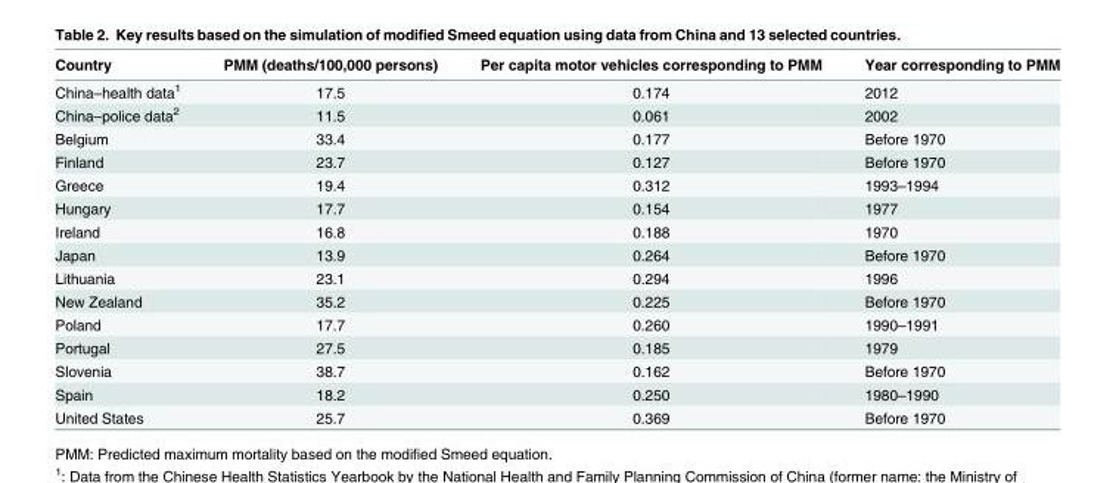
<table><thead><tr><td>Country</td><td>PMM (deaths/100,000 persons)</td><td>Per capita motor vehicles corresponding to PMM</td><td>Year corresponding to PMM</td></tr></thead><tbody><tr><td>China–health data<sup>1</sup></td><td>17.5</td><td>0.174</td><td>2012</td></tr><tr><td>China–police data<sup>2</sup></td><td>11.5</td><td>0.061</td><td>2002</td></tr><tr><td>Belgium</td><td>33.4</td><td>0.177</td><td>Before 1970</td></tr><tr><td>Finland</td><td>23.7</td><td>0.127</td><td>Before 1970</td></tr><tr><td>Greece</td><td>19.4</td><td>0.312</td><td>1993–1994</td></tr><tr><td>Hungary</td><td>17.7</td><td>0.154</td><td>1977</td></tr><tr><td>Ireland</td><td>16.8</td><td>0.188</td><td>1970</td></tr><tr><td>Japan</td><td>13.9</td><td>0.264</td><td>Before 1970</td></tr><tr><td>Lithuania</td><td>23.1</td><td>0.294</td><td>1996</td></tr><tr><td>New Zealand</td><td>35.2</td><td>0.225</td><td>Before 1970</td></tr><tr><td>Poland</td><td>17.7</td><td>0.260</td><td>1990–1991</td></tr><tr><td>Portugal</td><td>27.5</td><td>0.185</td><td>1979</td></tr><tr><td>Slovenia</td><td>38.7</td><td>0.162</td><td>Before 1970</td></tr><tr><td>Spain</td><td>18.2</td><td>0.250</td><td>1980–1990</td></tr><tr><td>United States</td><td>25.7</td><td>0.369</td><td>Before 1970</td></tr></tbody></table>